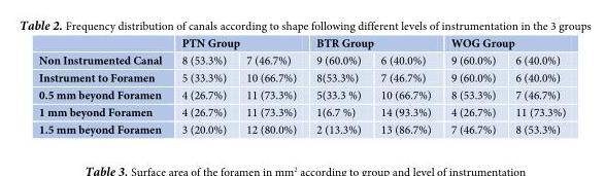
<table><thead><tr><td rowspan="2">Non Instrumented Canal</td><td colspan="2">PTN Group</td><td colspan="2">BTR Group</td><td colspan="2">WOG Group</td></tr><tr><td>8 (53.3%)</td><td>7 (46.7%)</td><td>9 (60.0%)</td><td>6 (40.0%)</td><td>9 (60.0%)</td><td>6 (40.0%)</td></tr></thead><tbody><tr><td>Instrument to Foramen</td><td>5 (33.3%)</td><td>10 (66.7%)</td><td>8(53.3%)</td><td>7 (46.7%)</td><td>9 (60.0%)</td><td>6 (40.0%)</td></tr><tr><td>0.5 mm beyond Foramen</td><td>4 (26.7%)</td><td>11 (73.3%)</td><td>5(33.3 %)</td><td>10 (66.7%)</td><td>8 (53.3%)</td><td>7 (46.7%)</td></tr><tr><td>1 mm beyond Foramen</td><td>4 (26.7%)</td><td>11 (73.3%)</td><td>1(6.7 %)</td><td>14 (93.3%)</td><td>4 (26.7%)</td><td>11 (73.3%)</td></tr><tr><td>1.5 mm beyond Foramen</td><td>3 (20.0%)</td><td>12 (80.0%)</td><td>2 (13.3%)</td><td>13 (86.7%)</td><td>7 (46.7%)</td><td>8 (53.3%)</td></tr></tbody></table>